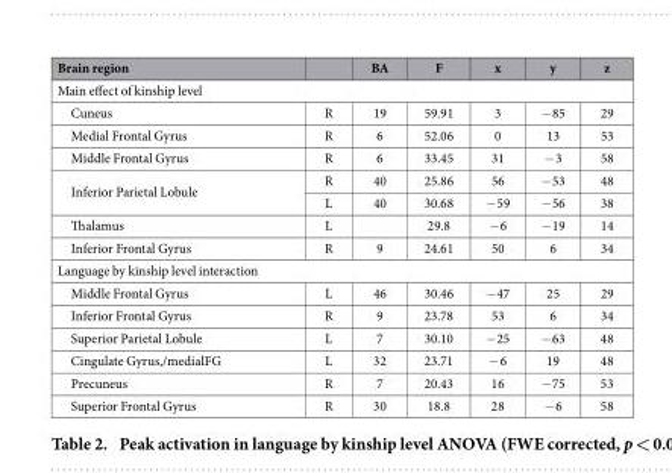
<table><thead><tr><td>Brain region</td><td></td><td>BA</td><td>F</td><td>x</td><td>y</td><td>z</td></tr></thead><tbody><tr><td colspan="7">Main effect of kinship level</td></tr><tr><td>Cuneus</td><td>R</td><td>19</td><td>59.91</td><td>3</td><td>− 85</td><td>29</td></tr><tr><td>Medial Frontal Gyrus</td><td>R</td><td>6</td><td>52.06</td><td>0</td><td>13</td><td>53</td></tr><tr><td>Middle Frontal Gyrus</td><td>R</td><td>6</td><td>33.45</td><td>31</td><td>− 3</td><td>58</td></tr><tr><td rowspan="2">Inferior Parietal Lobule</td><td>R</td><td>40</td><td>25.86</td><td>56</td><td>− 53</td><td>48</td></tr><tr><td>L</td><td>40</td><td>30.68</td><td>− 59</td><td>− 56</td><td>38</td></tr><tr><td>Thalamus</td><td>L</td><td></td><td>29.8</td><td>− 6</td><td>− 19</td><td>14</td></tr><tr><td>Inferior Frontal Gyrus</td><td>R</td><td>9</td><td>24.61</td><td>50</td><td>6</td><td>34</td></tr><tr><td colspan="7">Language by kinship level interaction</td></tr><tr><td>Middle Frontal Gyrus</td><td>L</td><td>46</td><td>30.46</td><td>− 47</td><td>25</td><td>29</td></tr><tr><td>Inferior Frontal Gyrus</td><td>R</td><td>9</td><td>23.78</td><td>53</td><td>6</td><td>34</td></tr><tr><td>Superior Parietal Lobule</td><td>L</td><td>7</td><td>30.10</td><td>− 25</td><td>− 63</td><td>48</td></tr><tr><td>Cingulate Gyrus,/medialFG</td><td>L</td><td>32</td><td>23.71</td><td>− 6</td><td>19</td><td>48</td></tr><tr><td>Precuneus</td><td>R</td><td>7</td><td>20.43</td><td>16</td><td>− 75</td><td>53</td></tr><tr><td>Superior Frontal Gyrus</td><td>R</td><td>30</td><td>18.8</td><td>28</td><td>− 6</td><td>58</td></tr></tbody></table>